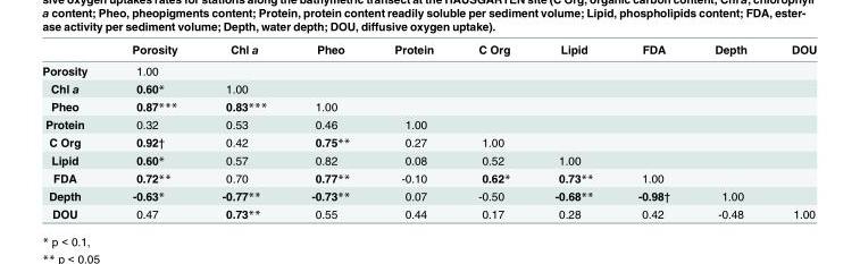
<table><thead><tr><td></td><td>Porosity</td><td>Chl a</td><td>Pheo</td><td>Protein</td><td>C Org</td><td>Lipid</td><td>FDA</td><td>Depth</td><td>DOU</td></tr></thead><tbody><tr><td>Porosity</td><td>1.00</td><td></td><td></td><td></td><td></td><td></td><td></td><td></td><td></td></tr><tr><td>Chl a</td><td>0.60*</td><td>1.00</td><td></td><td></td><td></td><td></td><td></td><td></td><td></td></tr><tr><td>Pheo</td><td>0.87***</td><td>0.83***</td><td>1.00</td><td></td><td></td><td></td><td></td><td></td><td></td></tr><tr><td>Protein</td><td>0.32</td><td>0.53</td><td>0.46</td><td>1.00</td><td></td><td></td><td></td><td></td><td></td></tr><tr><td>C Org</td><td>0.92†</td><td>0.42</td><td>0.75**</td><td>0.27</td><td>1.00</td><td></td><td></td><td></td><td></td></tr><tr><td>Lipid</td><td>0.60*</td><td>0.57</td><td>0.82</td><td>0.08</td><td>0.52</td><td>1.00</td><td></td><td></td><td></td></tr><tr><td>FDA</td><td>0.72**</td><td>0.70</td><td>0.77**</td><td>-0.10</td><td>0.62*</td><td>0.73**</td><td>1.00</td><td></td><td></td></tr><tr><td>Depth</td><td>-0.63*</td><td>-0.77**</td><td>-0.73**</td><td>0.07</td><td>-0.50</td><td>-0.68**</td><td>-0.98†</td><td>1.00</td><td></td></tr><tr><td>DOU</td><td>0.47</td><td>0.73**</td><td>0.55</td><td>0.44</td><td>0.17</td><td>0.28</td><td>0.42</td><td>-0.48</td><td>1.00</td></tr></tbody></table>